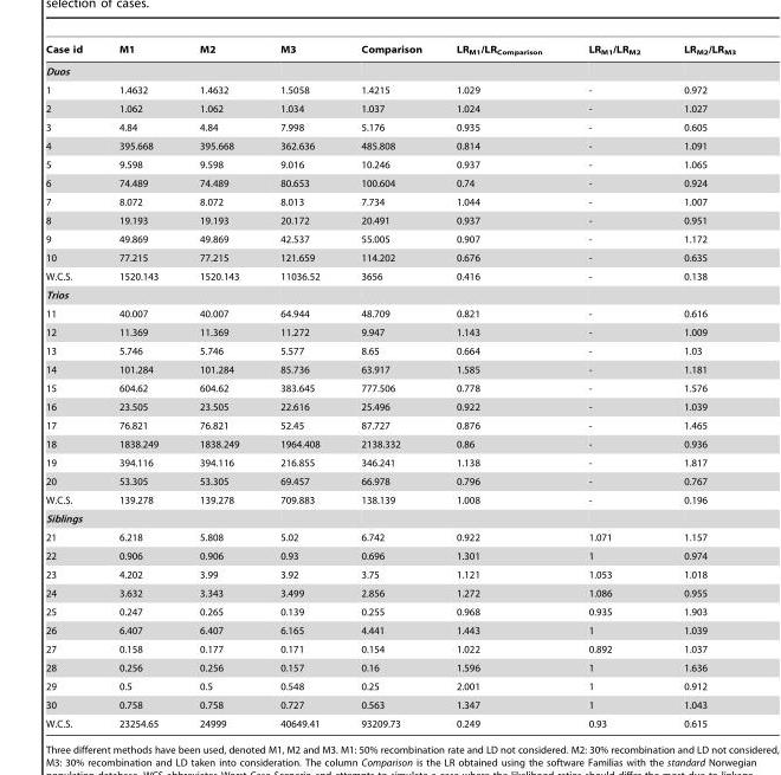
<table><thead><tr><td>Case id</td><td>M1</td><td>M2</td><td>M3</td><td>Comparison</td><td>LR<sub>M1</sub>/LR<sub>Comparison</sub></td><td>LR<sub>M1</sub>/LR<sub>M2</sub></td><td>LR<sub>M2</sub>/LR<sub>M3</sub></td></tr></thead><tbody><tr><td colspan="8">Duos</td></tr><tr><td>1</td><td>1.4632</td><td>1.4632</td><td>1.5058</td><td>1.4215</td><td>1.029</td><td>-</td><td>0.972</td></tr><tr><td>2</td><td>1.062</td><td>1.062</td><td>1.034</td><td>1.037</td><td>1.024</td><td>-</td><td>1.027</td></tr><tr><td>3</td><td>4.84</td><td>4.84</td><td>7.998</td><td>5.176</td><td>0.935</td><td>-</td><td>0.605</td></tr><tr><td>4</td><td>395.668</td><td>395.668</td><td>362.636</td><td>485.808</td><td>0.814</td><td>-</td><td>1.091</td></tr><tr><td>5</td><td>9.598</td><td>9.598</td><td>9.016</td><td>10.246</td><td>0.937</td><td>-</td><td>1.065</td></tr><tr><td>6</td><td>74.489</td><td>74.489</td><td>80.653</td><td>100.604</td><td>0.74</td><td>-</td><td>0.924</td></tr><tr><td>7</td><td>8.072</td><td>8.072</td><td>8.013</td><td>7.734</td><td>1.044</td><td>-</td><td>1.007</td></tr><tr><td>8</td><td>19.193</td><td>19.193</td><td>20.172</td><td>20.491</td><td>0.937</td><td>-</td><td>0.951</td></tr><tr><td>9</td><td>49.869</td><td>49.869</td><td>42.537</td><td>55.005</td><td>0.907</td><td>-</td><td>1.172</td></tr><tr><td>10</td><td>77.215</td><td>77.215</td><td>121.659</td><td>114.202</td><td>0.676</td><td>-</td><td>0.635</td></tr><tr><td>W.C.S.</td><td>1520.143</td><td>1520.143</td><td>11036.52</td><td>3656</td><td>0.416</td><td>-</td><td>0.138</td></tr><tr><td colspan="8">Trios</td></tr><tr><td>11</td><td>40.007</td><td>40.007</td><td>64.944</td><td>48.709</td><td>0.821</td><td>-</td><td>0.616</td></tr><tr><td>12</td><td>11.369</td><td>11.369</td><td>11.272</td><td>9.947</td><td>1.143</td><td>-</td><td>1.009</td></tr><tr><td>13</td><td>5.746</td><td>5.746</td><td>5.577</td><td>8.65</td><td>0.664</td><td>-</td><td>1.03</td></tr><tr><td>14</td><td>101.284</td><td>101.284</td><td>85.736</td><td>63.917</td><td>1.585</td><td>-</td><td>1.181</td></tr><tr><td>15</td><td>604.62</td><td>604.62</td><td>383.645</td><td>777.506</td><td>0.778</td><td>-</td><td>1.576</td></tr><tr><td>16</td><td>23.505</td><td>23.505</td><td>22.616</td><td>25.496</td><td>0.922</td><td>-</td><td>1.039</td></tr><tr><td>17</td><td>76.821</td><td>76.821</td><td>52.45</td><td>87.727</td><td>0.876</td><td>-</td><td>1.465</td></tr><tr><td>18</td><td>1838.249</td><td>1838.249</td><td>1964.408</td><td>2138.332</td><td>0.86</td><td>-</td><td>0.936</td></tr><tr><td>19</td><td>394.116</td><td>394.116</td><td>216.855</td><td>346.241</td><td>1.138</td><td>-</td><td>1.817</td></tr><tr><td>20</td><td>53.305</td><td>53.305</td><td>69.457</td><td>66.978</td><td>0.796</td><td>-</td><td>0.767</td></tr><tr><td>W.C.S.</td><td>139.278</td><td>139.278</td><td>709.883</td><td>138.139</td><td>1.008</td><td>-</td><td>0.196</td></tr><tr><td colspan="8">Siblings</td></tr><tr><td>21</td><td>6.218</td><td>5.808</td><td>5.02</td><td>6.742</td><td>0.922</td><td>1.071</td><td>1.157</td></tr><tr><td>22</td><td>0.906</td><td>0.906</td><td>0.93</td><td>0.696</td><td>1.301</td><td>1</td><td>0.974</td></tr><tr><td>23</td><td>4.202</td><td>3.99</td><td>3.92</td><td>3.75</td><td>1.121</td><td>1.053</td><td>1.018</td></tr><tr><td>24</td><td>3.632</td><td>3.343</td><td>3.499</td><td>2.856</td><td>1.272</td><td>1.086</td><td>0.955</td></tr><tr><td>25</td><td>0.247</td><td>0.265</td><td>0.139</td><td>0.255</td><td>0.968</td><td>0.935</td><td>1.903</td></tr><tr><td>26</td><td>6.407</td><td>6.407</td><td>6.165</td><td>4.441</td><td>1.443</td><td>1</td><td>1.039</td></tr><tr><td>27</td><td>0.158</td><td>0.177</td><td>0.171</td><td>0.154</td><td>1.022</td><td>0.892</td><td>1.037</td></tr><tr><td>28</td><td>0.256</td><td>0.256</td><td>0.157</td><td>0.16</td><td>1.596</td><td>1</td><td>1.636</td></tr><tr><td>29</td><td>0.5</td><td>0.5</td><td>0.548</td><td>0.25</td><td>2.001</td><td>1</td><td>0.912</td></tr><tr><td>30</td><td>0.758</td><td>0.758</td><td>0.727</td><td>0.563</td><td>1.347</td><td>1</td><td>1.043</td></tr><tr><td>W.C.S.</td><td>23254.65</td><td>24999</td><td>40649.41</td><td>93209.73</td><td>0.249</td><td>0.93</td><td>0.615</td></tr></tbody></table>